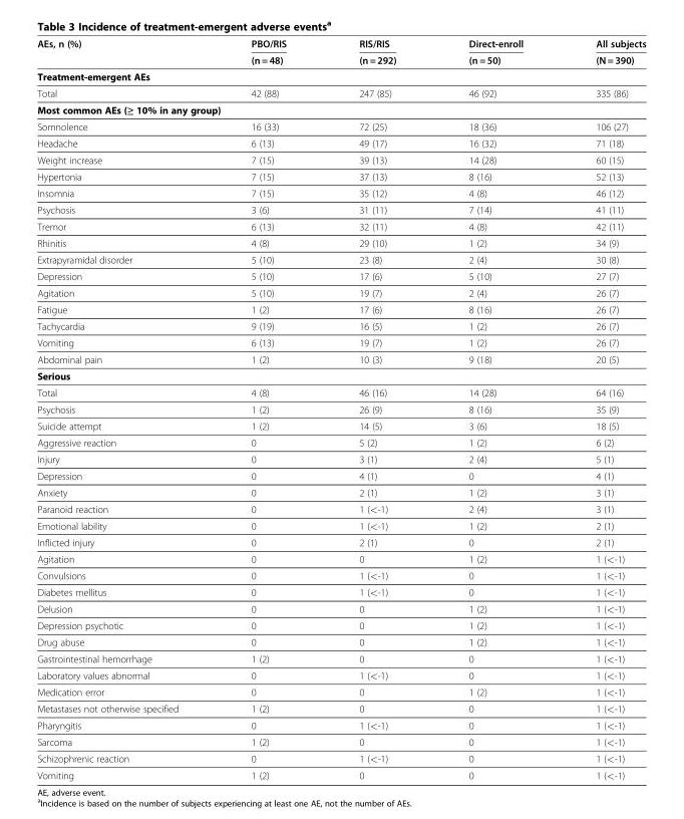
<table><thead><tr><td rowspan="2">AEs, n (%)</td><td rowspan="2">PBO/RIS (n = 48)</td><td rowspan="2">RIS/RIS (n = 292)</td><td rowspan="2">Direct-enroll (n = 50)</td><td rowspan="2">All subjects (N = 390)</td></tr><tr></tr></thead><tbody><tr><td colspan="5">Treatment-emergent AEs</td></tr><tr><td>Total</td><td>42 (88)</td><td>247 (85)</td><td>46 (92)</td><td>335 (86)</td></tr><tr><td colspan="5">Most common AEs (≥ 10% in any group)</td></tr><tr><td>Somnolence</td><td>16 (33)</td><td>72 (25)</td><td>18 (36)</td><td>106 (27)</td></tr><tr><td>Headache</td><td>6 (13)</td><td>49 (17)</td><td>16 (32)</td><td>71 (18)</td></tr><tr><td>Weight increase</td><td>7 (15)</td><td>39 (13)</td><td>14 (28)</td><td>60 (15)</td></tr><tr><td>Hypertonia</td><td>7 (15)</td><td>37 (13)</td><td>8 (16)</td><td>52 (13)</td></tr><tr><td>Insomnia</td><td>7 (15)</td><td>35 (12)</td><td>4 (8)</td><td>46 (12)</td></tr><tr><td>Psychosis</td><td>3 (6)</td><td>31 (11)</td><td>7 (14)</td><td>41 (11)</td></tr><tr><td>Tremor</td><td>6 (13)</td><td>32 (11)</td><td>4 (8)</td><td>42 (11)</td></tr><tr><td>Rhinitis</td><td>4 (8)</td><td>29 (10)</td><td>1 (2)</td><td>34 (9)</td></tr><tr><td>Extrapyramidal disorder</td><td>5 (10)</td><td>23 (8)</td><td>2 (4)</td><td>30 (8)</td></tr><tr><td>Depression</td><td>5 (10)</td><td>17 (6)</td><td>5 (10)</td><td>27 (7)</td></tr><tr><td>Agitation</td><td>5 (10)</td><td>19 (7)</td><td>2 (4)</td><td>26 (7)</td></tr><tr><td>Fatigue</td><td>1 (2)</td><td>17 (6)</td><td>8 (16)</td><td>26 (7)</td></tr><tr><td>Tachycardia</td><td>9 (19)</td><td>16 (5)</td><td>1 (2)</td><td>26 (7)</td></tr><tr><td>Vomiting</td><td>6 (13)</td><td>19 (7)</td><td>1 (2)</td><td>26 (7)</td></tr><tr><td>Abdominal pain</td><td>1 (2)</td><td>10 (3)</td><td>9 (18)</td><td>20 (5)</td></tr><tr><td colspan="5">Serious</td></tr><tr><td>Total</td><td>4 (8)</td><td>46 (16)</td><td>14 (28)</td><td>64 (16)</td></tr><tr><td>Psychosis</td><td>1 (2)</td><td>26 (9)</td><td>8 (16)</td><td>35 (9)</td></tr><tr><td>Suicide attempt</td><td>1 (2)</td><td>14 (5)</td><td>3 (6)</td><td>18 (5)</td></tr><tr><td>Aggressive reaction</td><td>0</td><td>5 (2)</td><td>1 (2)</td><td>6 (2)</td></tr><tr><td>Injury</td><td>0</td><td>3 (1)</td><td>2 (4)</td><td>5 (1)</td></tr><tr><td>Depression</td><td>0</td><td>4 (1)</td><td>0</td><td>4 (1)</td></tr><tr><td>Anxiety</td><td>0</td><td>2 (1)</td><td>1 (2)</td><td>3 (1)</td></tr><tr><td>Paranoid reaction</td><td>0</td><td>1 (&lt;-1)</td><td>2 (4)</td><td>3 (1)</td></tr><tr><td>Emotional lability</td><td>0</td><td>1 (&lt;-1)</td><td>1 (2)</td><td>2 (1)</td></tr><tr><td>Inflicted injury</td><td>0</td><td>2 (1)</td><td>0</td><td>2 (1)</td></tr><tr><td>Agitation</td><td>0</td><td>0</td><td>1 (2)</td><td>1 (&lt;-1)</td></tr><tr><td>Convulsions</td><td>0</td><td>1 (&lt;-1)</td><td>0</td><td>1 (&lt;-1)</td></tr><tr><td>Diabetes mellitus</td><td>0</td><td>1 (&lt;-1)</td><td>0</td><td>1 (&lt;-1)</td></tr><tr><td>Delusion</td><td>0</td><td>0</td><td>1 (2)</td><td>1 (&lt;-1)</td></tr><tr><td>Depression psychotic</td><td>0</td><td>0</td><td>1 (2)</td><td>1 (&lt;-1)</td></tr><tr><td>Drug abuse</td><td>0</td><td>0</td><td>1 (2)</td><td>1 (&lt;-1)</td></tr><tr><td>Gastrointestinal hemorrhage</td><td>1 (2)</td><td>0</td><td>0</td><td>1 (&lt;-1)</td></tr><tr><td>Laboratory values abnormal</td><td>0</td><td>1 (&lt;-1)</td><td>0</td><td>1 (&lt;-1)</td></tr><tr><td>Medication error</td><td>0</td><td>0</td><td>1 (2)</td><td>1 (&lt;-1)</td></tr><tr><td>Metastases not otherwise specified</td><td>1 (2)</td><td>0</td><td>0</td><td>1 (&lt;-1)</td></tr><tr><td>Pharyngitis</td><td>0</td><td>1 (&lt;-1)</td><td>0</td><td>1 (&lt;-1)</td></tr><tr><td>Sarcoma</td><td>1 (2)</td><td>0</td><td>0</td><td>1 (&lt;-1)</td></tr><tr><td>Schizophrenic reaction</td><td>0</td><td>1 (&lt;-1)</td><td>0</td><td>1 (&lt;-1)</td></tr><tr><td>Vomiting</td><td>1 (2)</td><td>0</td><td>0</td><td>1 (&lt;-1)</td></tr></tbody></table>